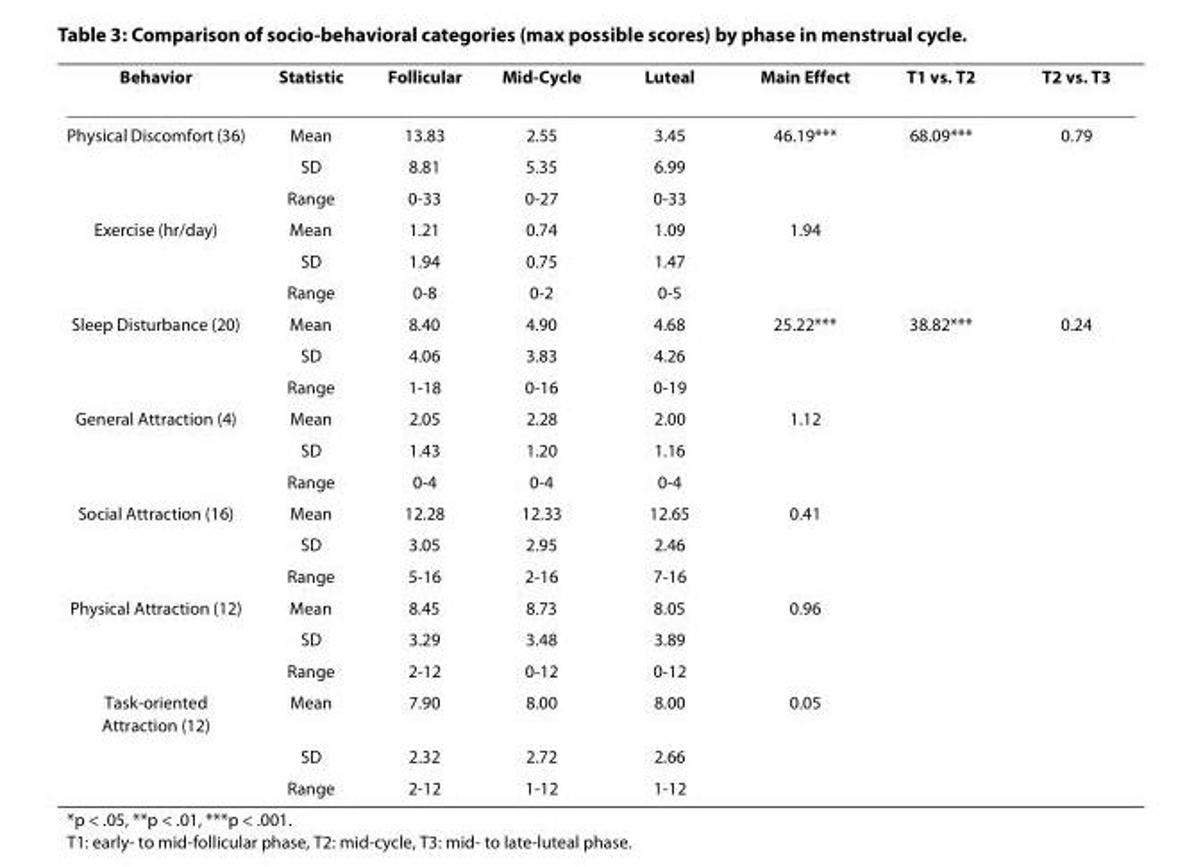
<table><thead><tr><td>Behavior</td><td>Statistic</td><td>Follicular</td><td>Mid-Cycle</td><td>Luteal</td><td>Main Effect</td><td>T1 vs. T2</td><td>T2 vs. T3</td></tr></thead><tbody><tr><td rowspan="3">Physical Discomfort (36)</td><td>Mean</td><td>13.83</td><td>2.55</td><td>3.45</td><td>46.19***</td><td>68.09***</td><td>0.79</td></tr><tr><td>SD</td><td>8.81</td><td>5.35</td><td>6.99</td><td></td><td></td><td></td></tr><tr><td>Range</td><td>0-33</td><td>0-27</td><td>0-33</td><td></td><td></td><td></td></tr><tr><td rowspan="3">Exercise (hr/day)</td><td>Mean</td><td>1.21</td><td>0.74</td><td>1.09</td><td>1.94</td><td></td><td></td></tr><tr><td>SD</td><td>1.94</td><td>0.75</td><td>1.47</td><td></td><td></td><td></td></tr><tr><td>Range</td><td>0-8</td><td>0-2</td><td>0-5</td><td></td><td></td><td></td></tr><tr><td rowspan="3">Sleep Disturbance (20)</td><td>Mean</td><td>8.40</td><td>4.90</td><td>4.68</td><td>25.22***</td><td>38.82***</td><td>0.24</td></tr><tr><td>SD</td><td>4.06</td><td>3.83</td><td>4.26</td><td></td><td></td><td></td></tr><tr><td>Range</td><td>1-18</td><td>0-16</td><td>0-19</td><td></td><td></td><td></td></tr><tr><td rowspan="3">General Attraction (4)</td><td>Mean</td><td>2.05</td><td>2.28</td><td>2.00</td><td>1.12</td><td></td><td></td></tr><tr><td>SD</td><td>1.43</td><td>1.20</td><td>1.16</td><td></td><td></td><td></td></tr><tr><td>Range</td><td>0-4</td><td>0-4</td><td>0-4</td><td></td><td></td><td></td></tr><tr><td rowspan="3">Social Attraction (16)</td><td>Mean</td><td>12.28</td><td>12.33</td><td>12.65</td><td>0.41</td><td></td><td></td></tr><tr><td>SD</td><td>3.05</td><td>2.95</td><td>2.46</td><td></td><td></td><td></td></tr><tr><td>Range</td><td>5-16</td><td>2-16</td><td>7-16</td><td></td><td></td><td></td></tr><tr><td rowspan="3">Physical Attraction (12)</td><td>Mean</td><td>8.45</td><td>8.73</td><td>8.05</td><td>0.96</td><td></td><td></td></tr><tr><td>SD</td><td>3.29</td><td>3.48</td><td>3.89</td><td></td><td></td><td></td></tr><tr><td>Range</td><td>2-12</td><td>0-12</td><td>0-12</td><td></td><td></td><td></td></tr><tr><td rowspan="3">Task-oriented Attraction (12)</td><td>Mean</td><td>7.90</td><td>8.00</td><td>8.00</td><td>0.05</td><td></td><td></td></tr><tr><td>SD</td><td>2.32</td><td>2.72</td><td>2.66</td><td></td><td></td><td></td></tr><tr><td>Range</td><td>2-12</td><td>1-12</td><td>1-12</td><td></td><td></td><td></td></tr></tbody></table>